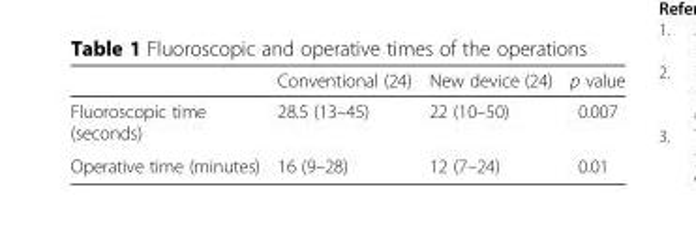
<table><thead><tr><td></td><td>Conventional (24)</td><td>New device (24)</td><td>p value</td></tr></thead><tbody><tr><td>Fluoroscopic time (seconds)</td><td>28.5 (13–45)</td><td>22 (10–50)</td><td>0.007</td></tr><tr><td>Operative time (minutes)</td><td>16 (9–28)</td><td>12 (7–24)</td><td>0.01</td></tr></tbody></table>